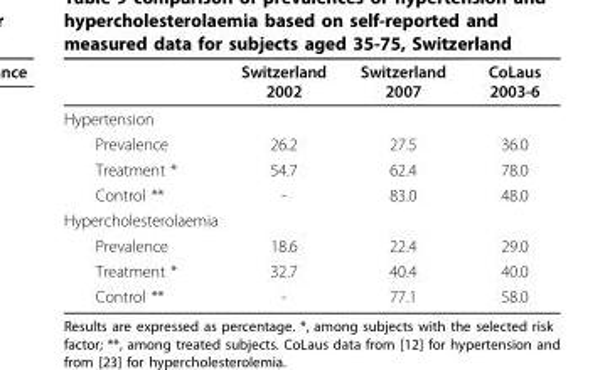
<table><thead><tr><td></td><td>Switzerland 2002</td><td>Switzerland 2007</td><td>CoLaus 2003-6</td></tr></thead><tbody><tr><td colspan="4">Hypertension</td></tr><tr><td>Prevalence</td><td>26.2</td><td>27.5</td><td>36.0</td></tr><tr><td>Treatment *</td><td>54.7</td><td>62.4</td><td>78.0</td></tr><tr><td>Control **</td><td>-</td><td>83.0</td><td>48.0</td></tr><tr><td colspan="4">Hypercholesterolaemia</td></tr><tr><td>Prevalence</td><td>18.6</td><td>22.4</td><td>29.0</td></tr><tr><td>Treatment *</td><td>32.7</td><td>40.4</td><td>40.0</td></tr><tr><td>Control **</td><td>-</td><td>77.1</td><td>58.0</td></tr></tbody></table>